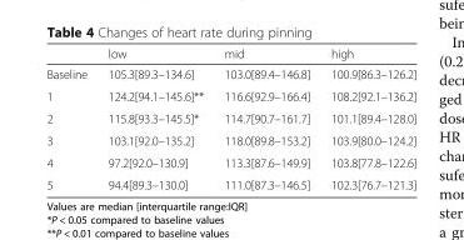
<table><thead><tr><td></td><td>low</td><td>mid</td><td>high</td></tr></thead><tbody><tr><td>Baseline</td><td>105.3[89.3–134.6]</td><td>103.0[89.4–146.8]</td><td>100.9[86.3–126.2]</td></tr><tr><td>1</td><td>124.2[94.1–145.6]**</td><td>116.6[92.9–166.4]</td><td>108.2[92.1–136.2]</td></tr><tr><td>2</td><td>115.8[93.3–145.5]*</td><td>114.7[90.7–161.7]</td><td>101.1[89.4–128.0]</td></tr><tr><td>3</td><td>103.1[92.0–135.2]</td><td>118.0[89.8–153.2]</td><td>103.9[80.0–124.2]</td></tr><tr><td>4</td><td>97.2[92.0–130.9]</td><td>113.3[87.6–149.9]</td><td>103.8[77.8–122.6]</td></tr><tr><td>5</td><td>94.4[89.3–130.0]</td><td>111.0[87.3–146.5]</td><td>102.3[76.7–121.3]</td></tr></tbody></table>